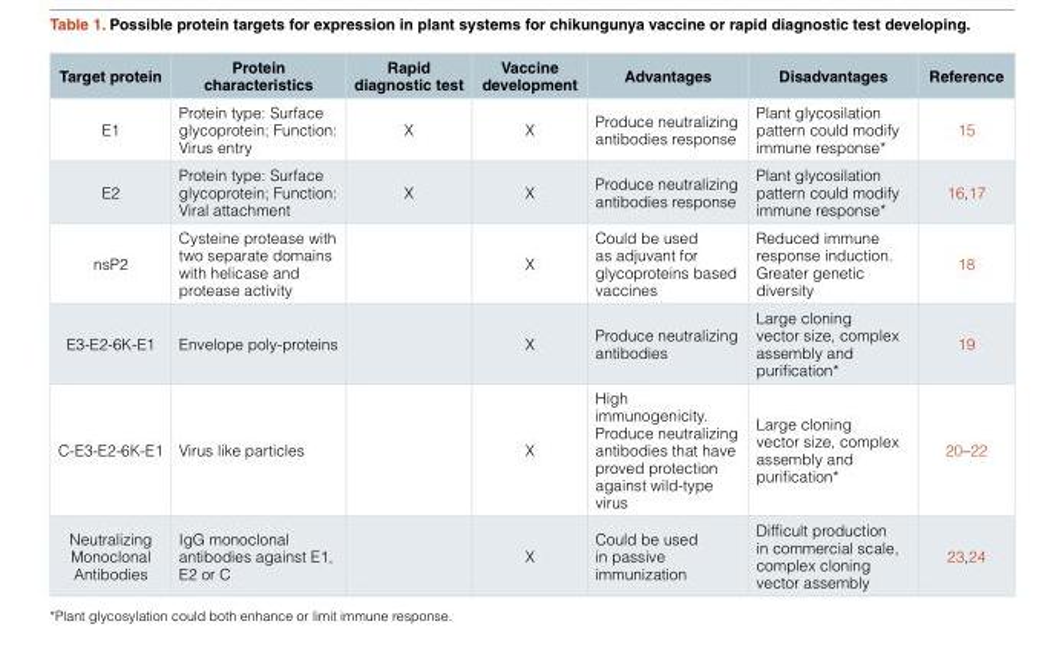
<table><thead><tr><td>Target protein</td><td>Protein characteristics</td><td>Rapid diagnostic test</td><td>Vaccine development</td><td>Advantages</td><td>Disadvantages</td><td>Reference</td></tr></thead><tbody><tr><td>E1</td><td>Protein type: Surface glycoprotein; Function: Virus entry</td><td>X</td><td>X</td><td>Produce neutralizing antibodies response</td><td>Plant glycosilation pattern could modify immune response*</td><td>15</td></tr><tr><td>E2</td><td>Protein type: Surface glycoprotein; Function: Viral attachment</td><td>X</td><td>X</td><td>Produce neutralizing antibodies response</td><td>Plant glycosilation pattern could modify immune response*</td><td>16,17</td></tr><tr><td>nsP2</td><td>Cysteine protease with two separate domains with helicase and protease activity</td><td></td><td>X</td><td>Could be used as adjuvant for glycoproteins based vaccines</td><td>Reduced immune response induction. Greater genetic diversity</td><td>18</td></tr><tr><td>E3-E2-6K-E1</td><td>Envelope poly-proteins</td><td></td><td>X</td><td>Produce neutralizing antibodies</td><td>Large cloning vector size, complex assembly and purification*</td><td>19</td></tr><tr><td>C-E3-E2-6K-E1</td><td>Virus like particles</td><td></td><td>X</td><td>High immunogenicity. Produce neutralizing antibodies that have proved protection against wild-type virus</td><td>Large cloning vector size, complex assembly and purification*</td><td>20–22</td></tr><tr><td>Neutralizing Monoclonal Antibodies</td><td>IgG monoclonal antibodies against E1, E2 or C</td><td></td><td>X</td><td>Could be used in passive immunization</td><td>Difficult production in commercial scale, complex cloning vector assembly</td><td>23,24</td></tr></tbody></table>